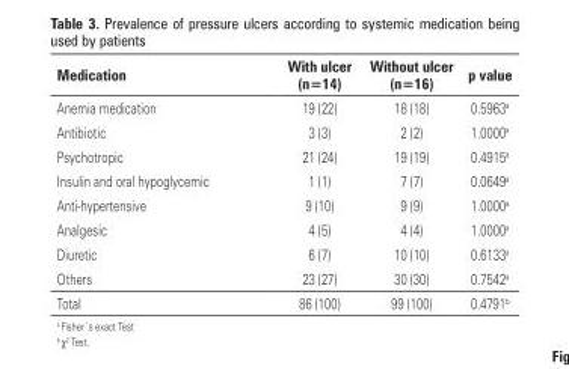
<table><thead><tr><td>Medication</td><td>With ulcer (n=14)</td><td>Without ulcer (n=16)</td><td>p value</td></tr></thead><tbody><tr><td>Anemia medication</td><td>19 (22)</td><td>18 (18)</td><td>0.596<sup>3a</sup></td></tr><tr><td>Antibiotic</td><td>3 (3)</td><td>2 (2)</td><td>1.0000<sup>a</sup></td></tr><tr><td>Psychotropic</td><td>21 (24)</td><td>19 (19)</td><td>0.4915<sup>a</sup></td></tr><tr><td>Insulin and oral hypoglycemic</td><td>1 (1)</td><td>7 (7)</td><td>0.0649<sup>a</sup></td></tr><tr><td>Anti-hypertensive</td><td>9 (10)</td><td>9 (9)</td><td>1.0000<sup>a</sup></td></tr><tr><td>Analgesic</td><td>4 (5)</td><td>4 (4)</td><td>1.0000<sup>a</sup></td></tr><tr><td>Diuretic</td><td>6 (7)</td><td>10 (10)</td><td>0.6133<sup>a</sup></td></tr><tr><td>Others</td><td>23 (27)</td><td>30 (30)</td><td>0.7542<sup>a</sup></td></tr><tr><td>Total</td><td>86 (100)</td><td>99 (100)</td><td>0.479<sup>1b</sup></td></tr></tbody></table>